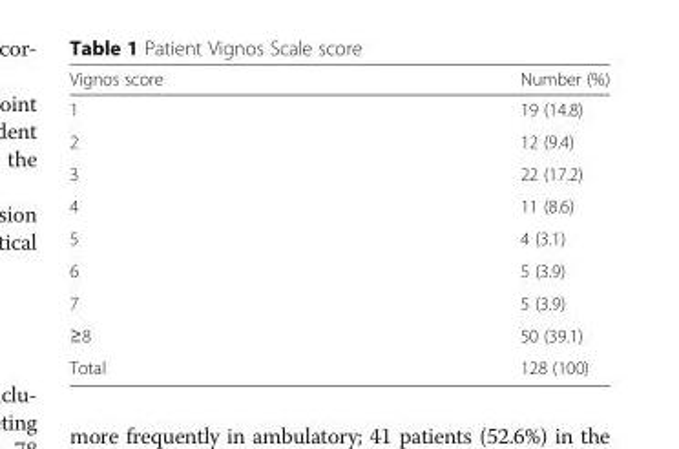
<table><thead><tr><td>Vignos score</td><td>Number (%)</td></tr></thead><tbody><tr><td>1</td><td>19 (14.8)</td></tr><tr><td>2</td><td>12 (9.4)</td></tr><tr><td>3</td><td>22 (17.2)</td></tr><tr><td>4</td><td>11 (8.6)</td></tr><tr><td>5</td><td>4 (3.1)</td></tr><tr><td>6</td><td>5 (3.9)</td></tr><tr><td>7</td><td>5 (3.9)</td></tr><tr><td>≥8</td><td>50 (39.1)</td></tr><tr><td>Total</td><td>128 (100)</td></tr></tbody></table>